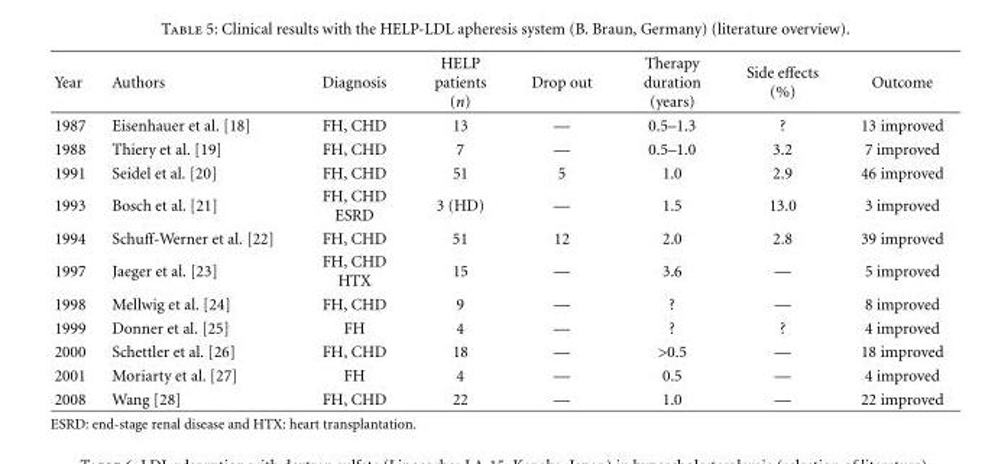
<table><thead><tr><td>Year</td><td>Authors</td><td>Diagnosis</td><td>HELP patients (n)</td><td>Drop out</td><td>Therapy duration (years)</td><td>Side effects (%)</td><td>Outcome</td></tr></thead><tbody><tr><td>1987</td><td>Eisenhauer et al. [18]</td><td>FH, CHD</td><td>13</td><td>—</td><td>0.5–1.3</td><td>?</td><td>13 improved</td></tr><tr><td>1988</td><td>Thiery et al. [19]</td><td>FH, CHD</td><td>7</td><td>—</td><td>0.5–1.0</td><td>3.2</td><td>7 improved</td></tr><tr><td>1991</td><td>Seidel et al. [20]</td><td>FH, CHD</td><td>51</td><td>5</td><td>1.0</td><td>2.9</td><td>46 improved</td></tr><tr><td>1993</td><td>Bosch et al. [21]</td><td>FH, CHD ESRD</td><td>3 (HD)</td><td>—</td><td>1.5</td><td>13.0</td><td>3 improved</td></tr><tr><td>1994</td><td>Schuff-Werner et al. [22]</td><td>FH, CHD</td><td>51</td><td>12</td><td>2.0</td><td>2.8</td><td>39 improved</td></tr><tr><td>1997</td><td>Jaeger et al. [23]</td><td>FH, CHD HTX</td><td>15</td><td>—</td><td>3.6</td><td>—</td><td>5 improved</td></tr><tr><td>1998</td><td>Mellwig et al. [24]</td><td>FH, CHD</td><td>9</td><td>—</td><td>?</td><td>—</td><td>8 improved</td></tr><tr><td>1999</td><td>Donner et al. [25]</td><td>FH</td><td>4</td><td>—</td><td>?</td><td>?</td><td>4 improved</td></tr><tr><td>2000</td><td>Schettler et al. [26]</td><td>FH, CHD</td><td>18</td><td>—</td><td>&gt;0.5</td><td>—</td><td>18 improved</td></tr><tr><td>2001</td><td>Moriarty et al. [27]</td><td>FH</td><td>4</td><td>—</td><td>0.5</td><td>—</td><td>4 improved</td></tr><tr><td>2008</td><td>Wang [28]</td><td>FH, CHD</td><td>22</td><td>—</td><td>1.0</td><td>—</td><td>22 improved</td></tr></tbody></table>